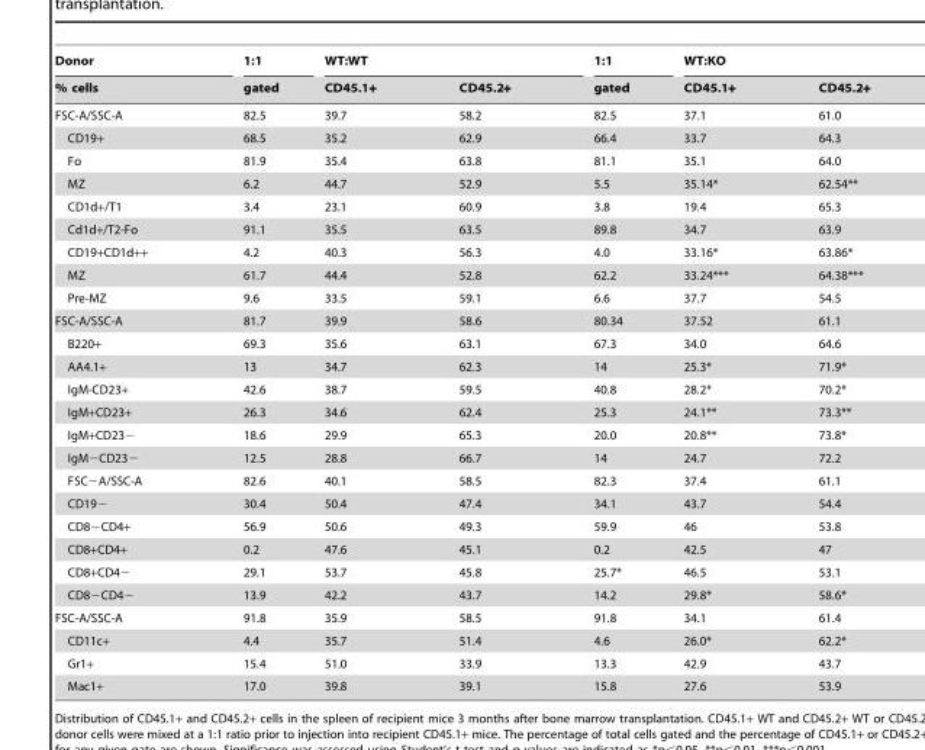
<table><thead><tr><td rowspan="2">Donor % cells</td><td rowspan="2">1:1 gated</td><td colspan="2">WT:WT</td><td rowspan="2">1:1 gated</td><td colspan="2">WT:KO</td></tr><tr><td>CD45.1+</td><td>CD45.2+</td><td>CD45.1+</td><td>CD45.2+</td></tr></thead><tbody><tr><td>FSC-A/SSC-A</td><td>82.5</td><td>39.7</td><td>58.2</td><td>82.5</td><td>37.1</td><td>61.0</td></tr><tr><td>CD19+</td><td>68.5</td><td>35.2</td><td>62.9</td><td>66.4</td><td>33.7</td><td>64.3</td></tr><tr><td>Fo</td><td>81.9</td><td>35.4</td><td>63.8</td><td>81.1</td><td>35.1</td><td>64.0</td></tr><tr><td>MZ</td><td>6.2</td><td>44.7</td><td>52.9</td><td>5.5</td><td>35.14*</td><td>62.54**</td></tr><tr><td>CD1d+/T1</td><td>3.4</td><td>23.1</td><td>60.9</td><td>3.8</td><td>19.4</td><td>65.3</td></tr><tr><td>Cd1d+/T2-Fo</td><td>91.1</td><td>35.5</td><td>63.5</td><td>89.8</td><td>34.7</td><td>63.9</td></tr><tr><td>CD19+CD1d++</td><td>4.2</td><td>40.3</td><td>56.3</td><td>4.0</td><td>33.16*</td><td>63.86*</td></tr><tr><td>MZ</td><td>61.7</td><td>44.4</td><td>52.8</td><td>62.2</td><td>33.24***</td><td>64.38***</td></tr><tr><td>Pre-MZ</td><td>9.6</td><td>33.5</td><td>59.1</td><td>6.6</td><td>37.7</td><td>54.5</td></tr><tr><td>FSC-A/SSC-A</td><td>81.7</td><td>39.9</td><td>58.6</td><td>80.34</td><td>37.52</td><td>61.1</td></tr><tr><td>B220+</td><td>69.3</td><td>35.6</td><td>63.1</td><td>67.3</td><td>34.0</td><td>64.6</td></tr><tr><td>AA4.1+</td><td>13</td><td>34.7</td><td>62.3</td><td>14</td><td>25.3*</td><td>71.9*</td></tr><tr><td>IgM-CD23+</td><td>42.6</td><td>38.7</td><td>59.5</td><td>40.8</td><td>28.2*</td><td>70.2*</td></tr><tr><td>IgM+CD23+</td><td>26.3</td><td>34.6</td><td>62.4</td><td>25.3</td><td>24.1**</td><td>73.3**</td></tr><tr><td>IgM+CD23−</td><td>18.6</td><td>29.9</td><td>65.3</td><td>20.0</td><td>20.8**</td><td>73.8*</td></tr><tr><td>IgM−CD23−</td><td>12.5</td><td>28.8</td><td>66.7</td><td>14</td><td>24.7</td><td>72.2</td></tr><tr><td>FSC−A/SSC-A</td><td>82.6</td><td>40.1</td><td>58.5</td><td>82.3</td><td>37.4</td><td>61.1</td></tr><tr><td>CD19−</td><td>30.4</td><td>50.4</td><td>47.4</td><td>34.1</td><td>43.7</td><td>54.4</td></tr><tr><td>CD8−CD4+</td><td>56.9</td><td>50.6</td><td>49.3</td><td>59.9</td><td>46</td><td>53.8</td></tr><tr><td>CD8+CD4+</td><td>0.2</td><td>47.6</td><td>45.1</td><td>0.2</td><td>42.5</td><td>47</td></tr><tr><td>CD8+CD4−</td><td>29.1</td><td>53.7</td><td>45.8</td><td>25.7*</td><td>46.5</td><td>53.1</td></tr><tr><td>CD8−CD4−</td><td>13.9</td><td>42.2</td><td>43.7</td><td>14.2</td><td>29.8*</td><td>58.6*</td></tr><tr><td>FSC-A/SSC-A</td><td>91.8</td><td>35.9</td><td>58.5</td><td>91.8</td><td>34.1</td><td>61.4</td></tr><tr><td>CD11c+</td><td>4.4</td><td>35.7</td><td>51.4</td><td>4.6</td><td>26.0*</td><td>62.2*</td></tr><tr><td>Gr1+</td><td>15.4</td><td>51.0</td><td>33.9</td><td>13.3</td><td>42.9</td><td>43.7</td></tr><tr><td>Mac1+</td><td>17.0</td><td>39.8</td><td>39.1</td><td>15.8</td><td>27.6</td><td>53.9</td></tr></tbody></table>